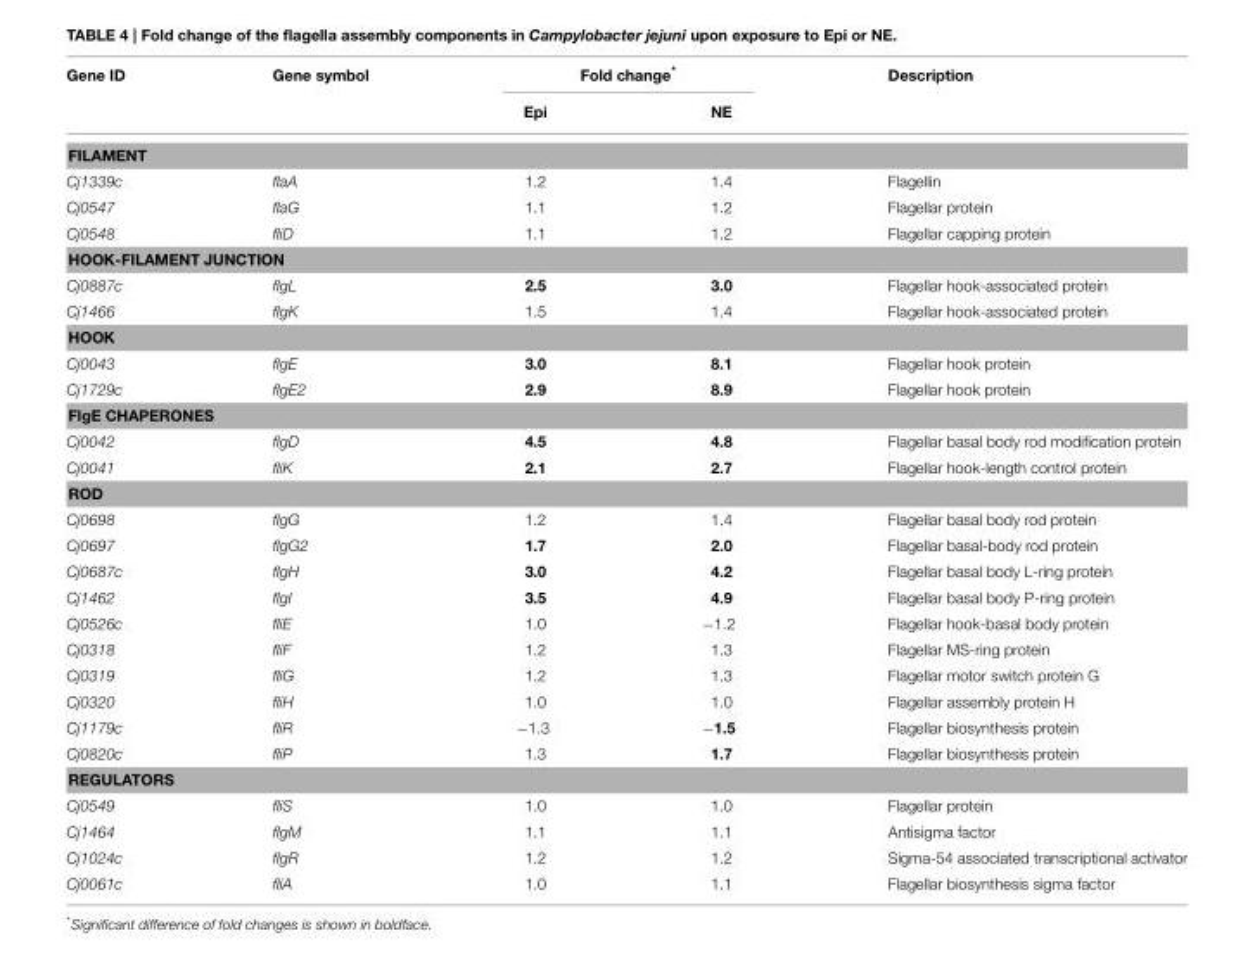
<table><thead><tr><td rowspan="2">Gene ID</td><td rowspan="2">Gene symbol</td><td colspan="2">Fold change*</td><td rowspan="2">Description</td></tr><tr><td>Epi</td><td>NE</td></tr></thead><tbody><tr><td colspan="5">FILAMENT</td></tr><tr><td>Cj1339c</td><td>flaA</td><td>1.2</td><td>1.4</td><td>Flagellin</td></tr><tr><td>Cj0547</td><td>flaG</td><td>1.1</td><td>1.2</td><td>Flagellar protein</td></tr><tr><td>Cj0548</td><td>fliD</td><td>1.1</td><td>1.2</td><td>Flagellar capping protein</td></tr><tr><td colspan="5">HOOK-FILAMENT JUNCTION</td></tr><tr><td>Cj0887c</td><td>flgL</td><td>2.5</td><td>3.0</td><td>Flagellar hook-associated protein</td></tr><tr><td>Cj1466</td><td>flgK</td><td>1.5</td><td>1.4</td><td>Flagellar hook-associated protein</td></tr><tr><td colspan="5">HOOK</td></tr><tr><td>Cj0043</td><td>flgE</td><td>3.0</td><td>8.1</td><td>Flagellar hook protein</td></tr><tr><td>Cj1729c</td><td>flgE2</td><td>2.9</td><td>8.9</td><td>Flagellar hook protein</td></tr><tr><td colspan="5">FlgE CHAPERONES</td></tr><tr><td>Cj0042</td><td>flgD</td><td>4.5</td><td>4.8</td><td>Flagellar basal body rod modification protein</td></tr><tr><td>Cj0041</td><td>fliK</td><td>2.1</td><td>2.7</td><td>Flagellar hook-length control protein</td></tr><tr><td colspan="5">ROD</td></tr><tr><td>Cj0698</td><td>flgG</td><td>1.2</td><td>1.4</td><td>Flagellar basal body rod protein</td></tr><tr><td>Cj0697</td><td>flgG2</td><td>1.7</td><td>2.0</td><td>Flagellar basal-body rod protein</td></tr><tr><td>Cj0687c</td><td>flgH</td><td>3.0</td><td>4.2</td><td>Flagellar basal body L-ring protein</td></tr><tr><td>Cj1462</td><td>flgI</td><td>3.5</td><td>4.9</td><td>Flagellar basal body P-ring protein</td></tr><tr><td>Cj0526c</td><td>fliE</td><td>1.0</td><td>−1.2</td><td>Flagellar hook-basal body protein</td></tr><tr><td>Cj0318</td><td>fliF</td><td>1.2</td><td>1.3</td><td>Flagellar MS-ring protein</td></tr><tr><td>Cj0319</td><td>fliG</td><td>1.2</td><td>1.3</td><td>Flagellar motor switch protein G</td></tr><tr><td>Cj0320</td><td>fliH</td><td>1.0</td><td>1.0</td><td>Flagellar assembly protein H</td></tr><tr><td>Cj1179c</td><td>fliR</td><td>−1.3</td><td>−1.5</td><td>Flagellar biosynthesis protein</td></tr><tr><td>Cj0820c</td><td>fliP</td><td>1.3</td><td>1.7</td><td>Flagellar biosynthesis protein</td></tr><tr><td colspan="5">REGULATORS</td></tr><tr><td>Cj0549</td><td>fliS</td><td>1.0</td><td>1.0</td><td>Flagellar protein</td></tr><tr><td>Cj1464</td><td>flgM</td><td>1.1</td><td>1.1</td><td>Antisigma factor</td></tr><tr><td>Cj1024c</td><td>flgR</td><td>1.2</td><td>1.2</td><td>Sigma-54 associated transcriptional activator</td></tr><tr><td>Cj0061c</td><td>fliA</td><td>1.0</td><td>1.1</td><td>Flagellar biosynthesis sigma factor</td></tr></tbody></table>